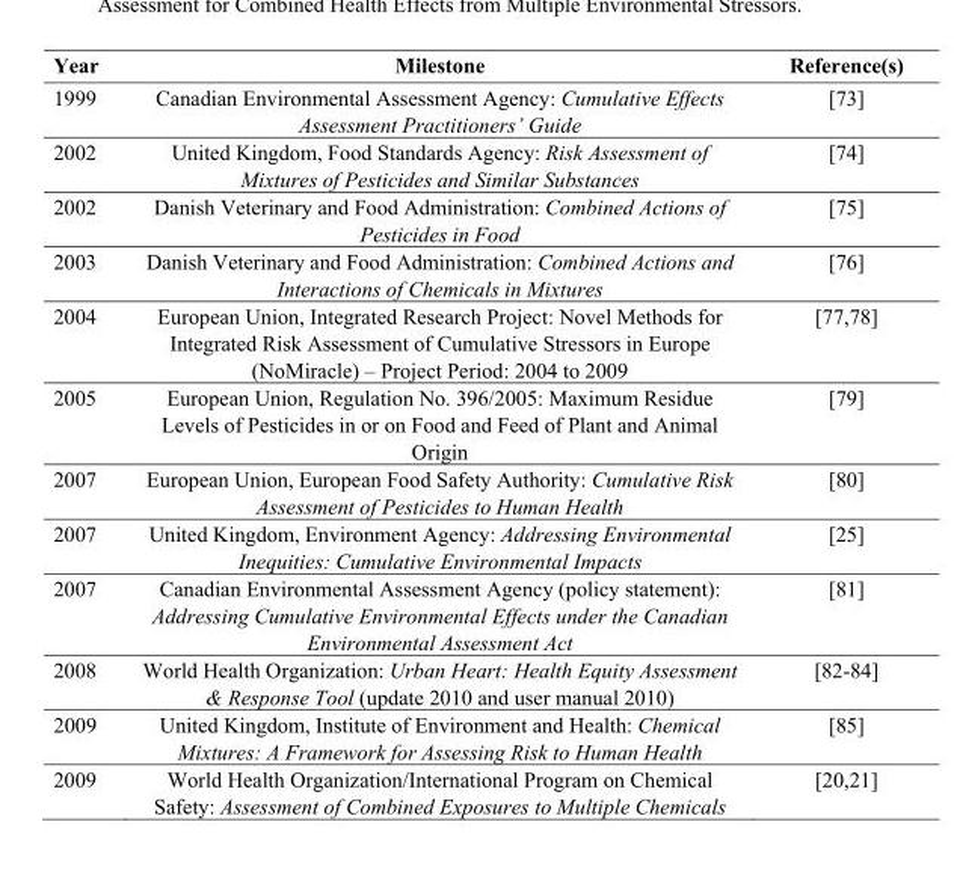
<table><thead><tr><td>Year</td><td>Milestone</td><td>Reference(s)</td></tr></thead><tbody><tr><td>1999</td><td>Canadian Environmental Assessment Agency: Cumulative Effects Assessment Practitioners’ Guide</td><td>[73]</td></tr><tr><td>2002</td><td>United Kingdom, Food Standards Agency: Risk Assessment of Mixtures of Pesticides and Similar Substances</td><td>[74]</td></tr><tr><td>2002</td><td>Danish Veterinary and Food Administration: Combined Actions of Pesticides in Food</td><td>[75]</td></tr><tr><td>2003</td><td>Danish Veterinary and Food Administration: Combined Actions and Interactions of Chemicals in Mixtures</td><td>[76]</td></tr><tr><td>2004</td><td>European Union, Integrated Research Project: Novel Methods for Integrated Risk Assessment of Cumulative Stressors in Europe (NoMiracle) – Project Period: 2004 to 2009</td><td>[77,78]</td></tr><tr><td>2005</td><td>European Union, Regulation No. 396/2005: Maximum Residue Levels of Pesticides in or on Food and Feed of Plant and Animal Origin</td><td>[79]</td></tr><tr><td>2007</td><td>European Union, European Food Safety Authority: Cumulative Risk Assessment of Pesticides to Human Health</td><td>[80]</td></tr><tr><td>2007</td><td>United Kingdom, Environment Agency: Addressing Environmental Inequities: Cumulative Environmental Impacts</td><td>[25]</td></tr><tr><td>2007</td><td>Canadian Environmental Assessment Agency (policy statement): Addressing Cumulative Environmental Effects under the Canadian Environmental Assessment Act</td><td>[81]</td></tr><tr><td>2008</td><td>World Health Organization: Urban Heart: Health Equity Assessment &amp; Response Tool (update 2010 and user manual 2010)</td><td>[82-84]</td></tr><tr><td>2009</td><td>United Kingdom, Institute of Environment and Health: Chemical Mixtures: A Framework for Assessing Risk to Human Health</td><td>[85]</td></tr><tr><td>2009</td><td>World Health Organization/International Program on Chemical Safety: Assessment of Combined Exposures to Multiple Chemicals</td><td>[20,21]</td></tr></tbody></table>